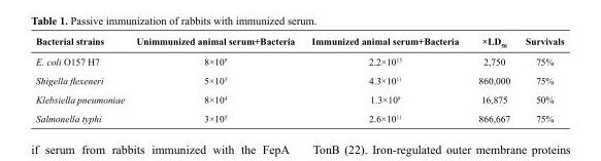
<table><thead><tr><td>Bacterial strains</td><td>Unimmunized animal serum+Bacteria</td><td>Immunized animal serum+Bacteria</td><td>×LD<sub>50</sub></td><td>Survivals</td></tr></thead><tbody><tr><td>E. coli O157 H7</td><td>8×10<sup>9</sup></td><td>2.2×10<sup>13</sup></td><td>2,750</td><td>75%</td></tr><tr><td>Shigella flexeneri</td><td>5×10<sup>5</sup></td><td>4.3×10<sup>11</sup></td><td>860,000</td><td>75%</td></tr><tr><td>Klebsiella pneumoniae</td><td>8×10<sup>4</sup></td><td>1.3×10<sup>9</sup></td><td>16,875</td><td>50%</td></tr><tr><td>Salmonella typhi</td><td>3×10<sup>5</sup></td><td>2.6×10<sup>11</sup></td><td>866,667</td><td>75%</td></tr></tbody></table>